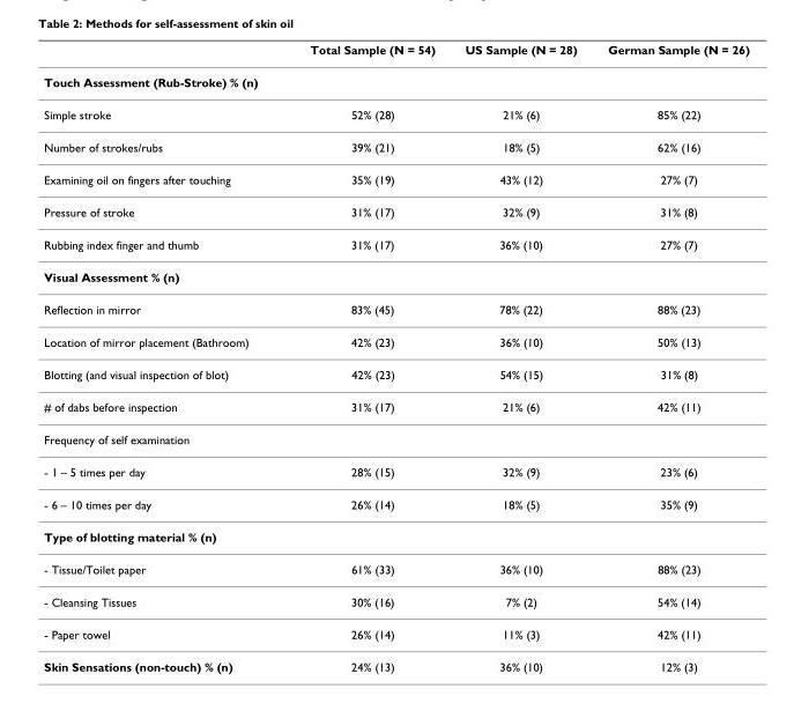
<table><thead><tr><td></td><td>Total Sample (N = 54)</td><td>US Sample (N = 28)</td><td>German Sample (N = 26)</td></tr></thead><tbody><tr><td colspan="4">Touch Assessment (Rub-Stroke) % (n)</td></tr><tr><td>Simple stroke</td><td>52% (28)</td><td>21% (6)</td><td>85% (22)</td></tr><tr><td>Number of strokes/rubs</td><td>39% (21)</td><td>18% (5)</td><td>62% (16)</td></tr><tr><td>Examining oil on fingers after touching</td><td>35% (19)</td><td>43% (12)</td><td>27% (7)</td></tr><tr><td>Pressure of stroke</td><td>31% (17)</td><td>32% (9)</td><td>31% (8)</td></tr><tr><td>Rubbing index finger and thumb</td><td>31% (17)</td><td>36% (10)</td><td>27% (7)</td></tr><tr><td colspan="4">Visual Assessment % (n)</td></tr><tr><td>Reflection in mirror</td><td>83% (45)</td><td>78% (22)</td><td>88% (23)</td></tr><tr><td>Location of mirror placement (Bathroom)</td><td>42% (23)</td><td>36% (10)</td><td>50% (13)</td></tr><tr><td>Blotting (and visual inspection of blot)</td><td>42% (23)</td><td>54% (15)</td><td>31% (8)</td></tr><tr><td># of dabs before inspection</td><td>31% (17)</td><td>21% (6)</td><td>42% (11)</td></tr><tr><td colspan="4">Frequency of self examination</td></tr><tr><td>- 1 – 5 times per day</td><td>28% (15)</td><td>32% (9)</td><td>23% (6)</td></tr><tr><td>- 6 – 10 times per day</td><td>26% (14)</td><td>18% (5)</td><td>35% (9)</td></tr><tr><td colspan="4">Type of blotting material % (n)</td></tr><tr><td>- Tissue/Toilet paper</td><td>61% (33)</td><td>36% (10)</td><td>88% (23)</td></tr><tr><td>- Cleansing Tissues</td><td>30% (16)</td><td>7% (2)</td><td>54% (14)</td></tr><tr><td>- Paper towel</td><td>26% (14)</td><td>11% (3)</td><td>42% (11)</td></tr><tr><td>Skin Sensations (non-touch) % (n)</td><td>24% (13)</td><td>36% (10)</td><td>12% (3)</td></tr></tbody></table>